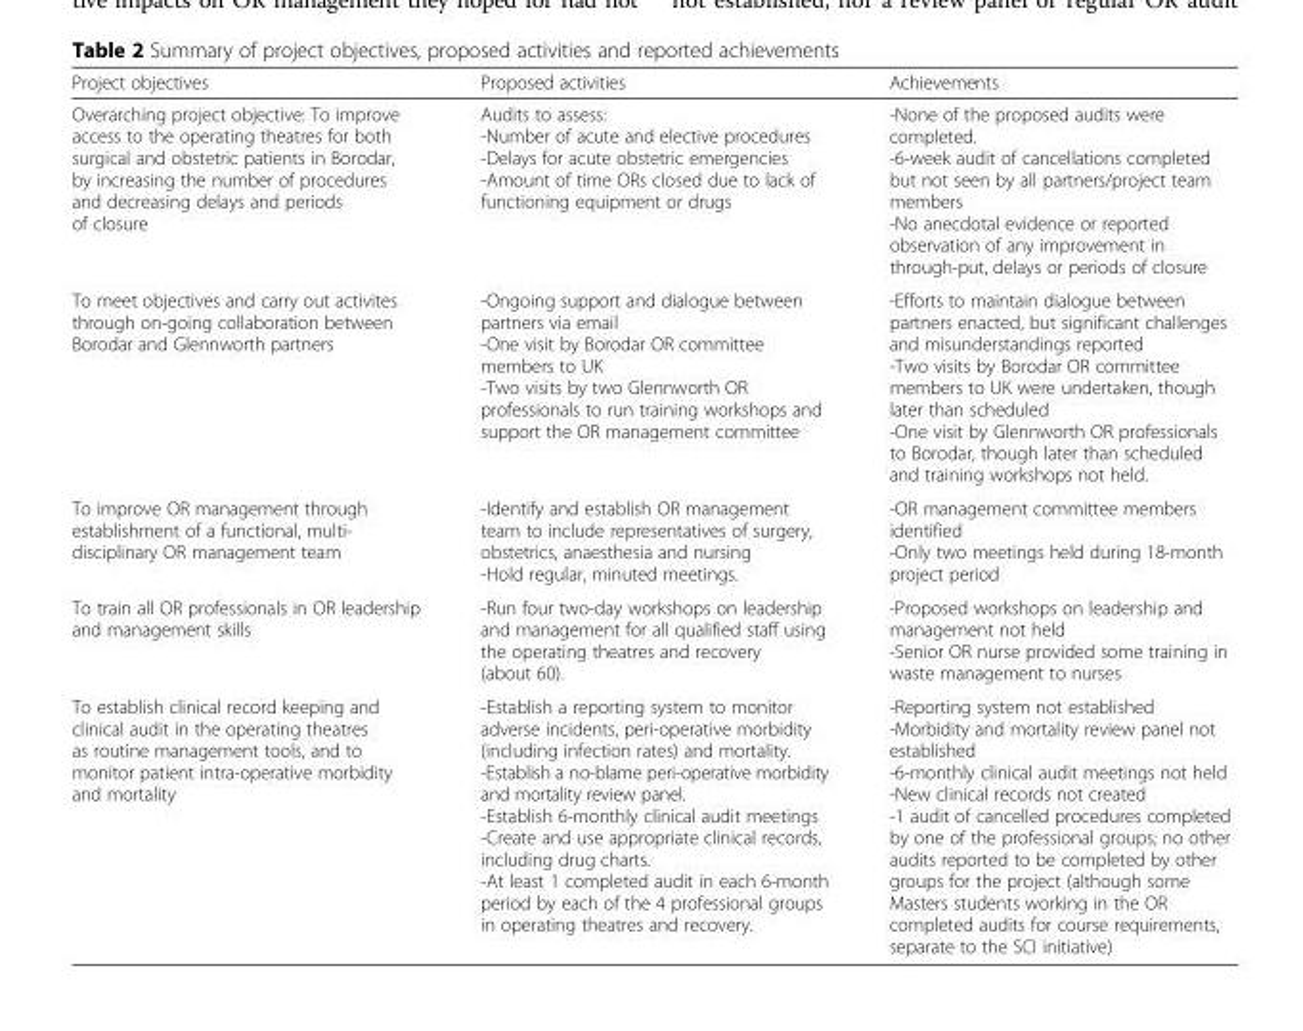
<table><thead><tr><td>Project objectives</td><td>Proposed activities</td><td>Achievements</td></tr></thead><tbody><tr><td>Overarching project objective: To improve access to the operating theatres for both surgical and obstetric patients in Borodar, by increasing the number of procedures and decreasing delays and periods of closure</td><td>Audits to assess: -Number of acute and elective procedures -Delays for acute obstetric emergencies -Amount of time ORs closed due to lack of functioning equipment or drugs</td><td>-None of the proposed audits were completed. -6-week audit of cancellations completed but not seen by all partners/project team members -No anecdotal evidence or reported observation of any improvement in through-put, delays or periods of closure</td></tr><tr><td>To meet objectives and carry out activites through on-going collaboration between Borodar and Glennworth partners</td><td>-Ongoing support and dialogue between partners via email -One visit by Borodar OR committee members to UK -Two visits by two Glennworth OR professionals to run training workshops and support the OR management committee</td><td>-Efforts to maintain dialogue between partners enacted, but significant challenges and misunderstandings reported -Two visits by Borodar OR committee members to UK were undertaken, though later than scheduled -One visit by Glennworth OR professionals to Borodar, though later than scheduled and training workshops not held.</td></tr><tr><td>To improve OR management through establishment of a functional, multi- disciplinary OR management team</td><td>-Identify and establish OR management team to include representatives of surgery, obstetrics, anaesthesia and nursing -Hold regular, minuted meetings.</td><td>-OR management committee members identified -Only two meetings held during 18-month project period</td></tr><tr><td>To train all OR professionals in OR leadership and management skills</td><td>-Run four two-day workshops on leadership and management for all qualified staff using the operating theatres and recovery (about 60).</td><td>-Proposed workshops on leadership and management not held -Senior OR nurse provided some training in waste management to nurses</td></tr><tr><td>To establish clinical record keeping and clinical audit in the operating theatres as routine management tools, and to monitor patient intra-operative morbidity and mortality</td><td>-Establish a reporting system to monitor adverse incidents, peri-operative morbidity (including infection rates) and mortality. -Establish a no-blame peri-operative morbidity and mortality review panel. -Establish 6-monthly clinical audit meetings -Create and use appropriate clinical records, including drug charts. -At least 1 completed audit in each 6-month period by each of the 4 professional groups in operating theatres and recovery.</td><td>-Reporting system not established -Morbidity and mortality review panel not established -6-monthly clinical audit meetings not held -New clinical records not created -1 audit of cancelled procedures completed by one of the professional groups; no other audits reported to be completed by other groups for the project (although some Masters students working in the OR completed audits for course requirements, separate to the SCI initiative)</td></tr></tbody></table>